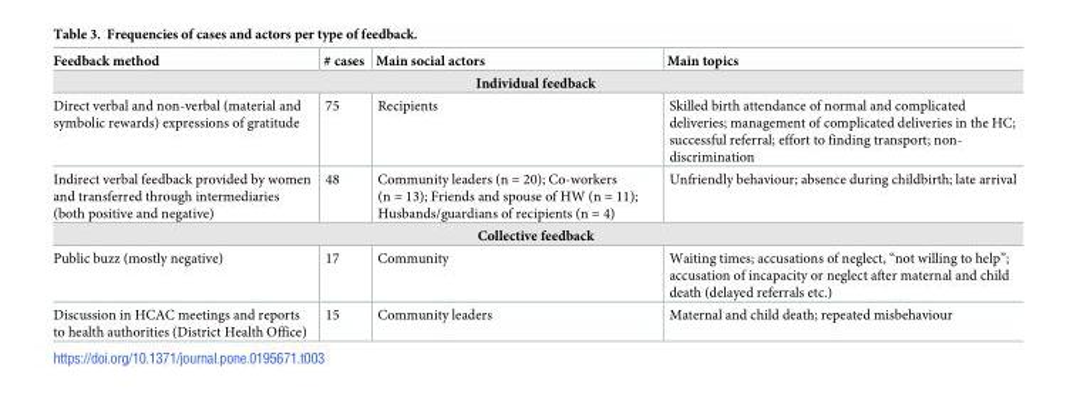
<table><thead><tr><td>Feedback method</td><td># cases</td><td>Main social actors</td><td>Main topics</td></tr></thead><tbody><tr><td colspan="4">Individual feedback</td></tr><tr><td>Direct verbal and non-verbal (material and symbolic rewards) expressions of gratitude</td><td>75</td><td>Recipients</td><td>Skilled birth attendance of normal and complicated deliveries; management of complicated deliveries in the HC; successful referral; effort to finding transport; non- discrimination</td></tr><tr><td>Indirect verbal feedback provided by women and transferred through intermediaries (both positive and negative)</td><td>48</td><td>Community leaders (n = 20); Co-workers (n = 13); Friends and spouse of HW (n = 11); Husbands/guardians of recipients (n = 4)</td><td>Unfriendly behaviour; absence during childbirth; late arrival</td></tr><tr><td colspan="4">Collective feedback</td></tr><tr><td>Public buzz (mostly negative)</td><td>17</td><td>Community</td><td>Waiting times; accusations of neglect, “not willing to help”; accusation of incapacity or neglect after maternal and child death (delayed referrals etc.)</td></tr><tr><td>Discussion in HCAC meetings and reports to health authorities (District Health Office)</td><td>15</td><td>Community leaders</td><td>Maternal and child death; repeated misbehaviour</td></tr></tbody></table>